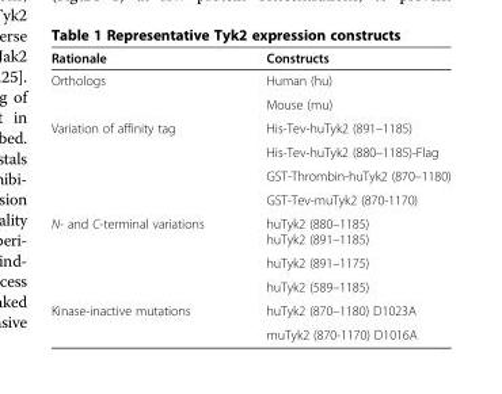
<table><thead><tr><td>Rationale</td><td>Constructs</td></tr></thead><tbody><tr><td rowspan="2">Orthologs</td><td>Human (hu)</td></tr><tr><td>Mouse (mu)</td></tr><tr><td rowspan="4">Variation of affinity tag</td><td>His-Tev-huTyk2 (891–1185)</td></tr><tr><td>His-Tev-huTyk2 (880–1185)-Flag</td></tr><tr><td>GST-Thrombin-huTyk2 (870–1180)</td></tr><tr><td>GST-Tev-muTyk2 (870-1170)</td></tr><tr><td rowspan="3">N- and C-terminal variations</td><td>huTyk2 (880–1185) huTyk2 (891–1185)</td></tr><tr><td>huTyk2 (891–1175)</td></tr><tr><td>huTyk2 (589–1185)</td></tr><tr><td rowspan="2">Kinase-inactive mutations</td><td>huTyk2 (870–1180) D1023A</td></tr><tr><td>muTyk2 (870-1170) D1016A</td></tr></tbody></table>